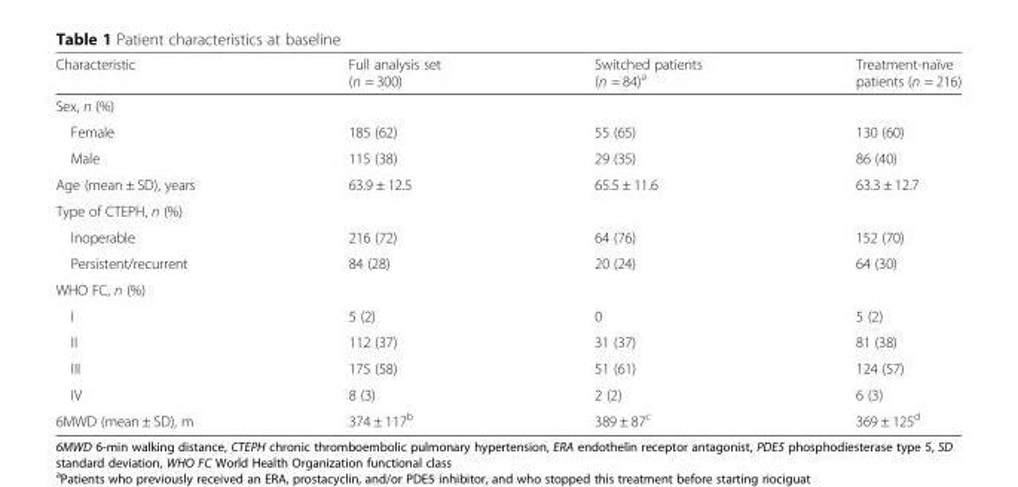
<table><thead><tr><td>Characteristic</td><td>Full analysis set (n = 300)</td><td>Switched patients (n = 84)<sup>a</sup></td><td>Treatment-naïve patients (n = 216)</td></tr></thead><tbody><tr><td colspan="4">Sex, n (%)</td></tr><tr><td>Female</td><td>185 (62)</td><td>55 (65)</td><td>130 (60)</td></tr><tr><td>Male</td><td>115 (38)</td><td>29 (35)</td><td>86 (40)</td></tr><tr><td>Age (mean ± SD), years</td><td>63.9 ± 12.5</td><td>65.5 ± 11.6</td><td>63.3 ± 12.7</td></tr><tr><td colspan="4">Type of CTEPH, n (%)</td></tr><tr><td>Inoperable</td><td>216 (72)</td><td>64 (76)</td><td>152 (70)</td></tr><tr><td>Persistent/recurrent</td><td>84 (28)</td><td>20 (24)</td><td>64 (30)</td></tr><tr><td colspan="4">WHO FC, n (%)</td></tr><tr><td>I</td><td>5 (2)</td><td>0</td><td>5 (2)</td></tr><tr><td>II</td><td>112 (37)</td><td>31 (37)</td><td>81 (38)</td></tr><tr><td>III</td><td>175 (58)</td><td>51 (61)</td><td>124 (57)</td></tr><tr><td>IV</td><td>8 (3)</td><td>2 (2)</td><td>6 (3)</td></tr><tr><td>6MWD (mean ± SD), m</td><td>374 ± 117<sup>b</sup></td><td>389 ± 87<sup>c</sup></td><td>369 ± 125<sup>d</sup></td></tr></tbody></table>